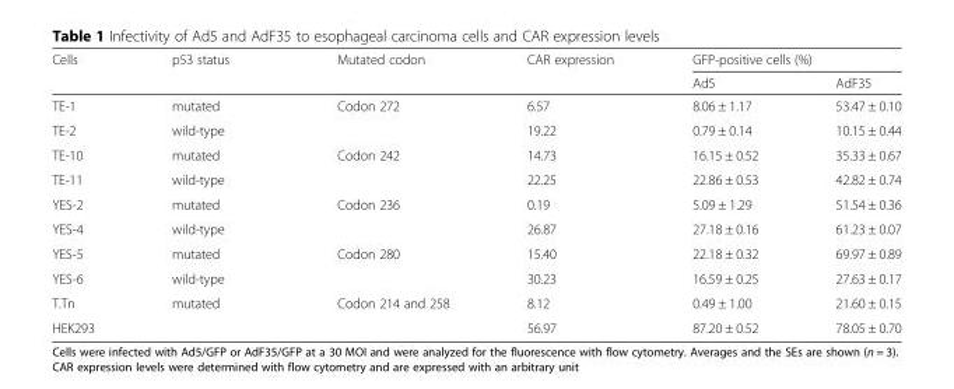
<table><thead><tr><td rowspan="2">Cells</td><td rowspan="2">p53 status</td><td rowspan="2">Mutated codon</td><td rowspan="2">CAR expression</td><td colspan="2">GFP-positive cells (%)</td></tr><tr><td>Ad5</td><td>AdF35</td></tr></thead><tbody><tr><td>TE-1</td><td>mutated</td><td>Codon 272</td><td>6.57</td><td>8.06 ± 1.17</td><td>53.47 ± 0.10</td></tr><tr><td>TE-2</td><td>wild-type</td><td></td><td>19.22</td><td>0.79 ± 0.14</td><td>10.15 ± 0.44</td></tr><tr><td>TE-10</td><td>mutated</td><td>Codon 242</td><td>14.73</td><td>16.15 ± 0.52</td><td>35.33 ± 0.67</td></tr><tr><td>TE-11</td><td>wild-type</td><td></td><td>22.25</td><td>22.86 ± 0.53</td><td>42.82 ± 0.74</td></tr><tr><td>YES-2</td><td>mutated</td><td>Codon 236</td><td>0.19</td><td>5.09 ± 1.29</td><td>51.54 ± 0.36</td></tr><tr><td>YES-4</td><td>wild-type</td><td></td><td>26.87</td><td>27.18 ± 0.16</td><td>61.23 ± 0.07</td></tr><tr><td>YES-5</td><td>mutated</td><td>Codon 280</td><td>15.40</td><td>22.18 ± 0.32</td><td>69.97 ± 0.89</td></tr><tr><td>YES-6</td><td>wild-type</td><td></td><td>30.23</td><td>16.59 ± 0.25</td><td>27.63 ± 0.17</td></tr><tr><td>T.Tn</td><td>mutated</td><td>Codon 214 and 258</td><td>8.12</td><td>0.49 ± 1.00</td><td>21.60 ± 0.15</td></tr><tr><td>HEK293</td><td></td><td></td><td>56.97</td><td>87.20 ± 0.52</td><td>78.05 ± 0.70</td></tr></tbody></table>